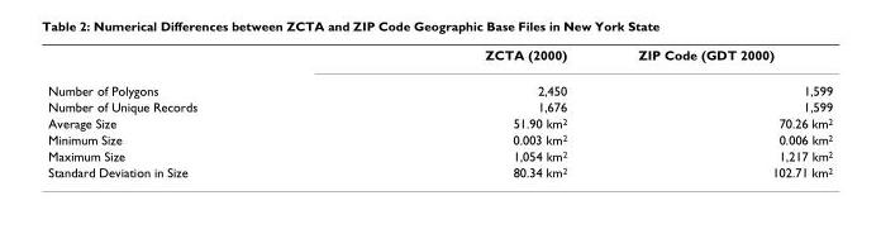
<table><thead><tr><td></td><td>ZCTA (2000)</td><td>ZIP Code (GDT 2000)</td></tr></thead><tbody><tr><td>Number of Polygons</td><td>2,450</td><td>1,599</td></tr><tr><td>Number of Unique Records</td><td>1,676</td><td>1,599</td></tr><tr><td>Average Size</td><td>51.90 km<sup>2</sup></td><td>70.26 km<sup>2</sup></td></tr><tr><td>Minimum Size</td><td>0.003 km<sup>2</sup></td><td>0.006 km<sup>2</sup></td></tr><tr><td>Maximum Size</td><td>1,054 km<sup>2</sup></td><td>1,217 km<sup>2</sup></td></tr><tr><td>Standard Deviation in Size</td><td>80.34 km<sup>2</sup></td><td>102.71 km<sup>2</sup></td></tr></tbody></table>